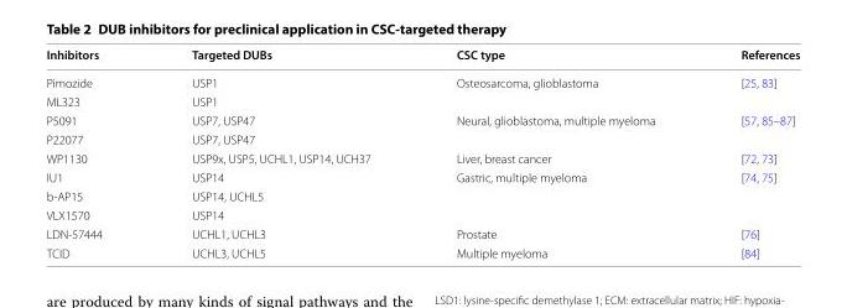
<table><thead><tr><td>Inhibitors</td><td>Targeted DUBs</td><td>CSC type</td><td>References</td></tr></thead><tbody><tr><td>Pimozide</td><td>USP1</td><td rowspan="2">Osteosarcoma, glioblastoma</td><td rowspan="2">[25, 83]</td></tr><tr><td>ML323</td><td>USP1</td></tr><tr><td>P5091</td><td>USP7, USP47</td><td rowspan="2">Neural, glioblastoma, multiple myeloma</td><td rowspan="2">[57, 85–87]</td></tr><tr><td>P22077</td><td>USP7, USP47</td></tr><tr><td>WP1130</td><td>USP9x, USP5, UCHL1, USP14, UCH37</td><td>Liver, breast cancer</td><td>[72, 73]</td></tr><tr><td>IU1</td><td>USP14</td><td rowspan="3">Gastric, multiple myeloma</td><td rowspan="3">[74, 75]</td></tr><tr><td>b-AP15</td><td>USP14, UCHL5</td></tr><tr><td>VLX1570</td><td>USP14</td></tr><tr><td>LDN-57444</td><td>UCHL1, UCHL3</td><td>Prostate</td><td>[76]</td></tr><tr><td>TCID</td><td>UCHL3, UCHL5</td><td>Multiple myeloma</td><td>[84]</td></tr></tbody></table>